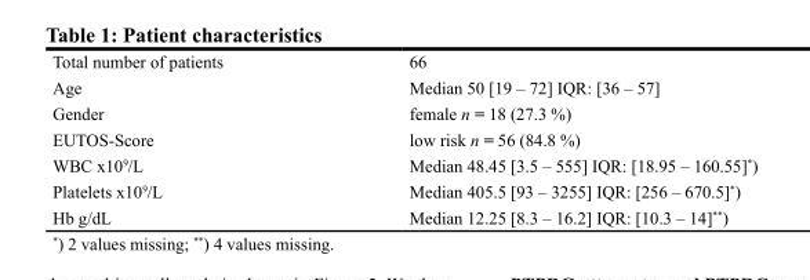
<table><tbody><tr><td>Total number of patients</td><td>66</td></tr><tr><td>Age</td><td>Median 50 [19 – 72] IQR: [36 – 57]</td></tr><tr><td>Gender</td><td>female n = 18 (27.3 %)</td></tr><tr><td>EUTOS-Score</td><td>low risk n = 56 (84.8 %)</td></tr><tr><td>WBC x10<sup>9</sup>/L</td><td>Median 48.45 [3.5 – 555] IQR: [18.95 – 160.55]*)</td></tr><tr><td>Platelets x10<sup>9</sup>/L</td><td>Median 405.5 [93 – 3255] IQR: [256 – 670.5]*)</td></tr><tr><td>Hb g/dL</td><td>Median 12.25 [8.3 – 16.2] IQR: [10.3 – 14]**)</td></tr></tbody></table>